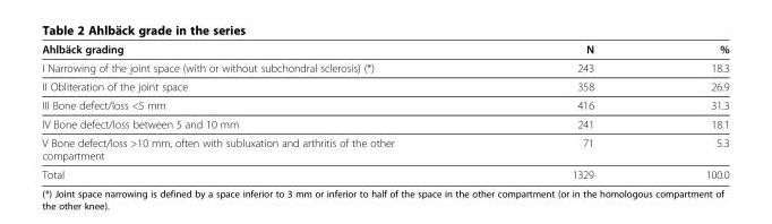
<table><thead><tr><td>Ahlbäck grading</td><td>N</td><td>%</td></tr></thead><tbody><tr><td>I Narrowing of the joint space (with or without subchondral sclerosis) (*)</td><td>243</td><td>18.3</td></tr><tr><td>II Obliteration of the joint space</td><td>358</td><td>26.9</td></tr><tr><td>III Bone defect/loss &lt;5 mm</td><td>416</td><td>31.3</td></tr><tr><td>IV Bone defect/loss between 5 and 10 mm</td><td>241</td><td>18.1</td></tr><tr><td>V Bone defect/loss &gt;10 mm, often with subluxation and arthritis of the other compartment</td><td>71</td><td>5.3</td></tr><tr><td>Total</td><td>1329</td><td>100.0</td></tr></tbody></table>